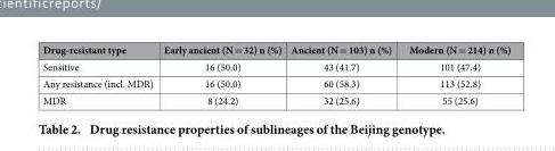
<table><thead><tr><td>Drug-resistant type</td><td>Early ancient (N = 32) n (%)</td><td>Ancient (N = 103) n (%)</td><td>Modern (N = 214) n (%)</td></tr></thead><tbody><tr><td>Sensitive</td><td>16 (50.0)</td><td>43 (41.7)</td><td>101 (47.4)</td></tr><tr><td>Any resistance (incl. MDR)</td><td>16 (50.0)</td><td>60 (58.3)</td><td>113 (52.8)</td></tr><tr><td>MDR</td><td>8 (24.2)</td><td>32 (25.6)</td><td>55 (25.6)</td></tr></tbody></table>